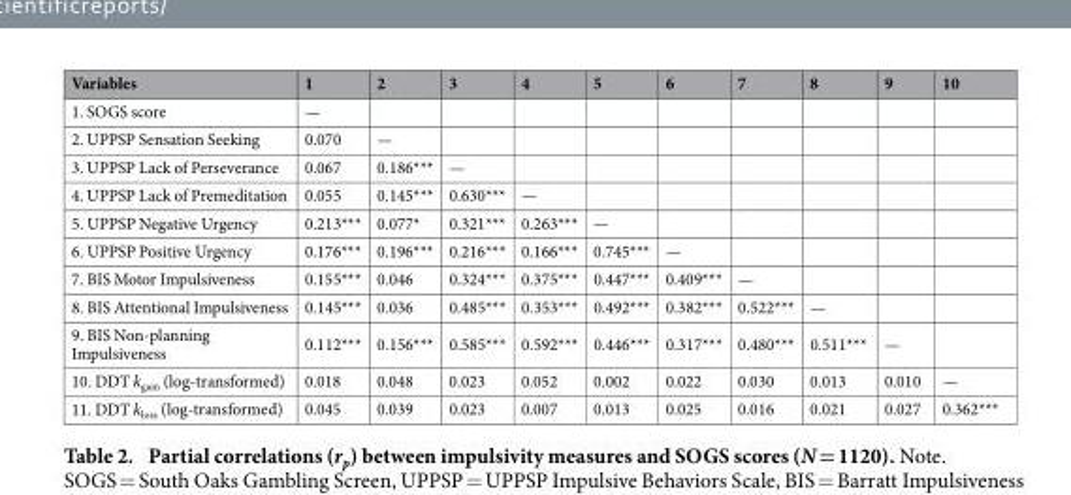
<table><thead><tr><td>Variables</td><td>1</td><td>2</td><td>3</td><td>4</td><td>5</td><td>6</td><td>7</td><td>8</td><td>9</td><td>10</td></tr></thead><tbody><tr><td>1. SOGS score</td><td>—</td><td></td><td></td><td></td><td></td><td></td><td></td><td></td><td></td><td></td></tr><tr><td>2. UPPSP Sensation Seeking</td><td>0.070</td><td>—</td><td></td><td></td><td></td><td></td><td></td><td></td><td></td><td></td></tr><tr><td>3. UPPSP Lack of Perseverance</td><td>0.067</td><td>0.186***</td><td>—</td><td></td><td></td><td></td><td></td><td></td><td></td><td></td></tr><tr><td>4. UPPSP Lack of Premeditation</td><td>0.055</td><td>0.145***</td><td>0.630***</td><td>—</td><td></td><td></td><td></td><td></td><td></td><td></td></tr><tr><td>5. UPPSP Negative Urgency</td><td>0.213***</td><td>0.077*</td><td>0.321***</td><td>0.263***</td><td>—</td><td></td><td></td><td></td><td></td><td></td></tr><tr><td>6. UPPSP Positive Urgency</td><td>0.176***</td><td>0.196***</td><td>0.216***</td><td>0.166***</td><td>0.745***</td><td>—</td><td></td><td></td><td></td><td></td></tr><tr><td>7. BIS Motor Impulsiveness</td><td>0.155***</td><td>0.046</td><td>0.324***</td><td>0.375***</td><td>0.447***</td><td>0.409***</td><td>—</td><td></td><td></td><td></td></tr><tr><td>8. BIS Attentional Impulsiveness</td><td>0.145***</td><td>0.036</td><td>0.485***</td><td>0.353***</td><td>0.492***</td><td>0.382***</td><td>0.522***</td><td>—</td><td></td><td></td></tr><tr><td>9. BIS Non-planning Impulsiveness</td><td>0.112***</td><td>0.156***</td><td>0.585***</td><td>0.592***</td><td>0.446***</td><td>0.317***</td><td>0.480***</td><td>0.511***</td><td>—</td><td></td></tr><tr><td>10. DDT k<sub>gain</sub> (log-transformed)</td><td>0.018</td><td>0.048</td><td>0.023</td><td>0.052</td><td>0.002</td><td>0.022</td><td>0.030</td><td>0.013</td><td>0.010</td><td>—</td></tr><tr><td>11. DDT k<sub>loss</sub> (log-transformed)</td><td>0.045</td><td>0.039</td><td>0.023</td><td>0.007</td><td>0.013</td><td>0.025</td><td>0.016</td><td>0.021</td><td>0.027</td><td>0.362***</td></tr></tbody></table>